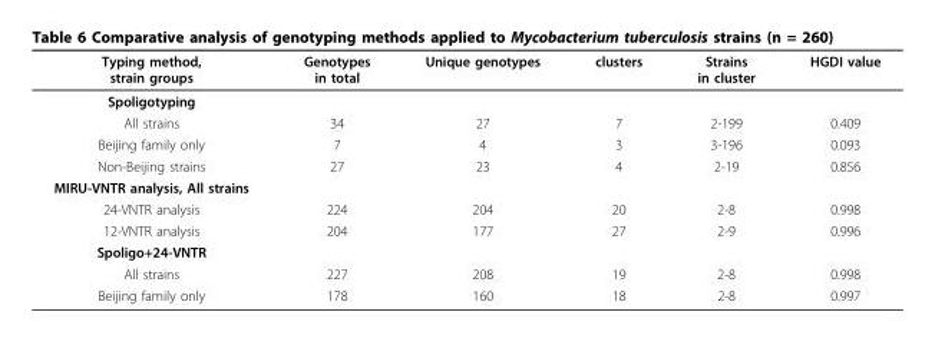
<table><thead><tr><td>Typing method, strain groups</td><td>Genotypes in total</td><td>Unique genotypes</td><td>clusters</td><td>Strains in cluster</td><td>HGDI value</td></tr></thead><tbody><tr><td colspan="6">Spoligotyping</td></tr><tr><td>All strains</td><td>34</td><td>27</td><td>7</td><td>2-199</td><td>0.409</td></tr><tr><td>Beijing family only</td><td>7</td><td>4</td><td>3</td><td>3-196</td><td>0.093</td></tr><tr><td>Non-Beijing strains</td><td>27</td><td>23</td><td>4</td><td>2-19</td><td>0.856</td></tr><tr><td colspan="6">MIRU-VNTR analysis, All strains</td></tr><tr><td>24-VNTR analysis</td><td>224</td><td>204</td><td>20</td><td>2-8</td><td>0.998</td></tr><tr><td>12-VNTR analysis</td><td>204</td><td>177</td><td>27</td><td>2-9</td><td>0.996</td></tr><tr><td colspan="6">Spoligo+24-VNTR</td></tr><tr><td>All strains</td><td>227</td><td>208</td><td>19</td><td>2-8</td><td>0.998</td></tr><tr><td>Beijing family only</td><td>178</td><td>160</td><td>18</td><td>2-8</td><td>0.997</td></tr></tbody></table>